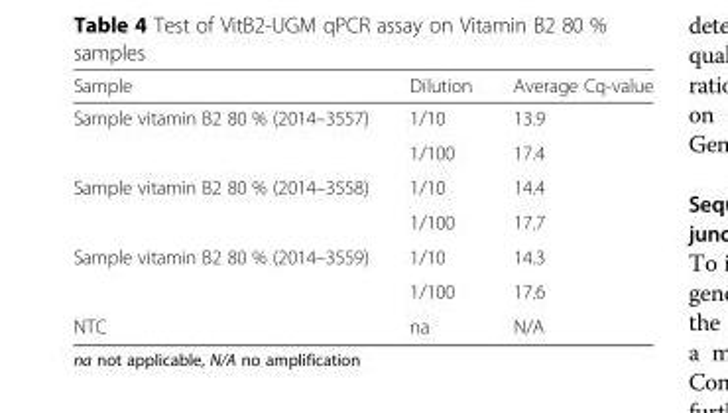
<table><thead><tr><td>Sample</td><td>Dilution</td><td>Average Cq-value</td></tr></thead><tbody><tr><td rowspan="2">Sample vitamin B2 80 % (2014–3557)</td><td>1/10</td><td>13.9</td></tr><tr><td>1/100</td><td>17.4</td></tr><tr><td rowspan="2">Sample vitamin B2 80 % (2014–3558)</td><td>1/10</td><td>14.4</td></tr><tr><td>1/100</td><td>17.7</td></tr><tr><td rowspan="2">Sample vitamin B2 80 % (2014–3559)</td><td>1/10</td><td>14.3</td></tr><tr><td>1/100</td><td>17.6</td></tr><tr><td>NTC</td><td>na</td><td>N/A</td></tr></tbody></table>